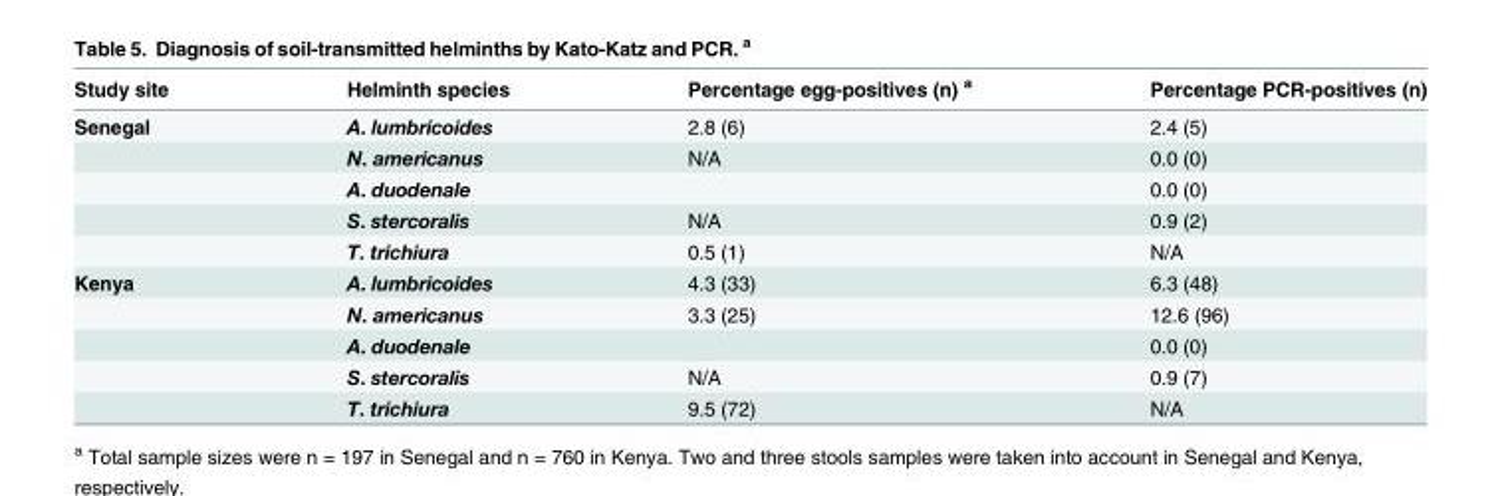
<table><thead><tr><td>Study site</td><td>Helminth species</td><td>Percentage egg-positives (n) <sup>a</sup></td><td>Percentage PCR-positives (n)</td></tr></thead><tbody><tr><td rowspan="5">Senegal</td><td>A. lumbricoides</td><td>2.8 (6)</td><td>2.4 (5)</td></tr><tr><td>N. americanus</td><td>N/A</td><td>0.0 (0)</td></tr><tr><td>A. duodenale</td><td></td><td>0.0 (0)</td></tr><tr><td>S. stercoralis</td><td>N/A</td><td>0.9 (2)</td></tr><tr><td>T. trichiura</td><td>0.5 (1)</td><td>N/A</td></tr><tr><td rowspan="5">Kenya</td><td>A. lumbricoides</td><td>4.3 (33)</td><td>6.3 (48)</td></tr><tr><td>N. americanus</td><td>3.3 (25)</td><td>12.6 (96)</td></tr><tr><td>A. duodenale</td><td></td><td>0.0 (0)</td></tr><tr><td>S. stercoralis</td><td>N/A</td><td>0.9 (7)</td></tr><tr><td>T. trichiura</td><td>9.5 (72)</td><td>N/A</td></tr></tbody></table>